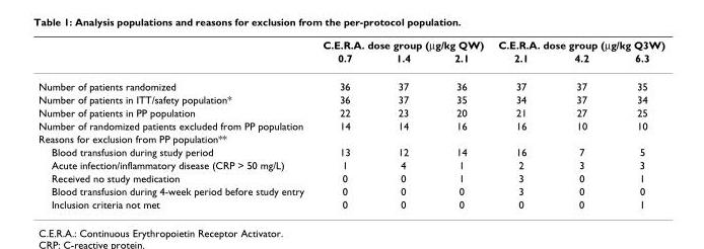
<table><thead><tr><td rowspan="2"></td><td colspan="3">C.E.R.A. dose group (μg/kg QW)</td><td colspan="3">C.E.R.A. dose group (μg/kg Q3W)</td></tr><tr><td>0.7</td><td>1.4</td><td>2.1</td><td>2.1</td><td>4.2</td><td>6.3</td></tr></thead><tbody><tr><td>Number of patients randomized</td><td>36</td><td>37</td><td>36</td><td>37</td><td>37</td><td>35</td></tr><tr><td>Number of patients in ITT/safety population*</td><td>36</td><td>37</td><td>35</td><td>34</td><td>37</td><td>34</td></tr><tr><td>Number of patients in PP population</td><td>22</td><td>23</td><td>20</td><td>21</td><td>27</td><td>25</td></tr><tr><td>Number of randomized patients excluded from PP population</td><td>14</td><td>14</td><td>16</td><td>16</td><td>10</td><td>10</td></tr><tr><td colspan="7">Reasons for exclusion from PP population**</td></tr><tr><td>Blood transfusion during study period</td><td>13</td><td>12</td><td>14</td><td>16</td><td>7</td><td>5</td></tr><tr><td>Acute infection/inflammatory disease (CRP &gt; 50 mg/L)</td><td>1</td><td>4</td><td>1</td><td>2</td><td>3</td><td>3</td></tr><tr><td>Received no study medication</td><td>0</td><td>0</td><td>1</td><td>3</td><td>0</td><td>1</td></tr><tr><td>Blood transfusion during 4-week period before study entry</td><td>0</td><td>0</td><td>0</td><td>3</td><td>0</td><td>0</td></tr><tr><td>Inclusion criteria not met</td><td>0</td><td>0</td><td>0</td><td>0</td><td>0</td><td>1</td></tr></tbody></table>